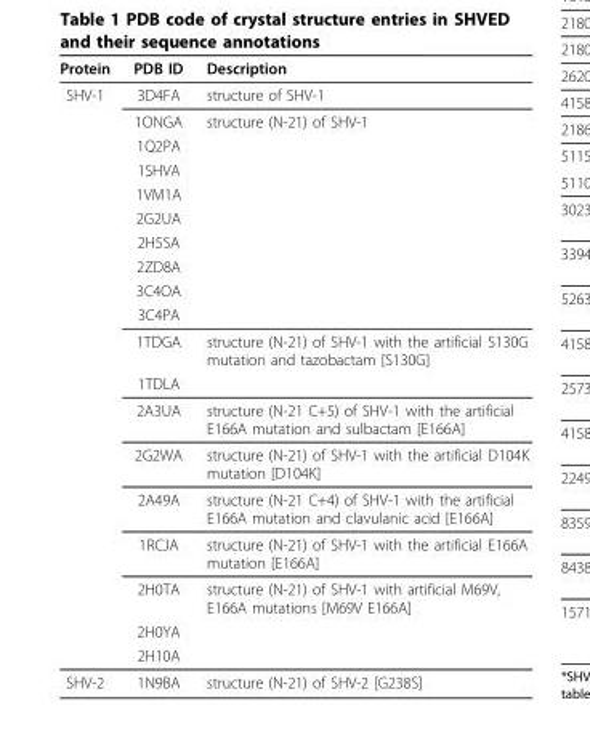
<table><thead><tr><td>Protein</td><td>PDB ID</td><td>Description</td></tr></thead><tbody><tr><td rowspan="19">SHV-1</td><td>3D4FA</td><td>structure of SHV-1</td></tr><tr><td>1ONGA</td><td>structure (N-21) of SHV-1</td></tr><tr><td>1Q2PA</td><td></td></tr><tr><td>1SHVA</td><td></td></tr><tr><td>1VM1A</td><td></td></tr><tr><td>2G2UA</td><td></td></tr><tr><td>2H5SA</td><td></td></tr><tr><td>2ZD8A</td><td></td></tr><tr><td>3C4OA</td><td></td></tr><tr><td>3C4PA</td><td></td></tr><tr><td>1TDGA</td><td>structure (N-21) of SHV-1 with the artificial S130G mutation and tazobactam [S130G]</td></tr><tr><td>1TDLA</td><td></td></tr><tr><td>2A3UA</td><td>structure (N-21 C+5) of SHV-1 with the artificial E166A mutation and sulbactam [E166A]</td></tr><tr><td>2G2WA</td><td>structure (N-21) of SHV-1 with the artificial D104K mutation [D104K]</td></tr><tr><td>2A49A</td><td>structure (N-21 C+4) of SHV-1 with the artificial E166A mutation and clavulanic acid [E166A]</td></tr><tr><td>1RCJA</td><td>structure (N-21) of SHV-1 with the artificial E166A mutation [E166A]</td></tr><tr><td>2H0TA</td><td>structure (N-21) of SHV-1 with artificial M69V, E166A mutations [M69V E166A]</td></tr><tr><td>2H0YA</td><td></td></tr><tr><td>2H10A</td><td></td></tr><tr><td>SHV-2</td><td>1N9BA</td><td>structure (N-21) of SHV-2 [G238S]</td></tr></tbody></table>